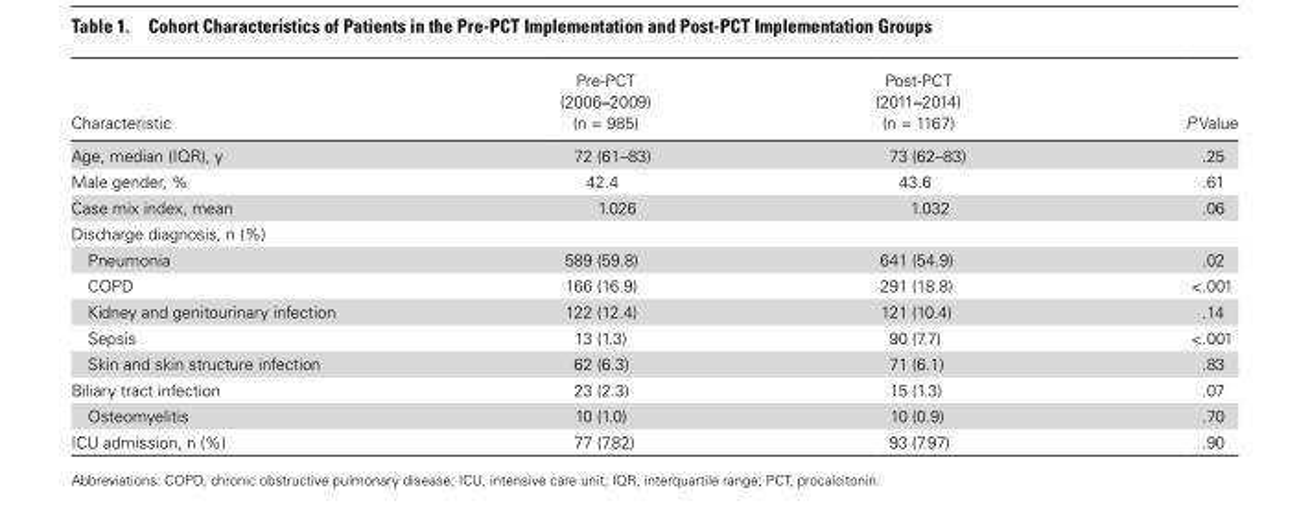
<table><thead><tr><td>Characteristic</td><td>Pre-PCT (2006–2009) (n = 985)</td><td>Post-PCT (2011–2014) (n = 1167)</td><td>P Value</td></tr></thead><tbody><tr><td>Age, median (IQR), y</td><td>72 (61–83)</td><td>73 (62–83)</td><td>.25</td></tr><tr><td>Male gender, %</td><td>42.4</td><td>43.6</td><td>.61</td></tr><tr><td>Case mix index, mean</td><td>1.026</td><td>1.032</td><td>.06</td></tr><tr><td colspan="4">Discharge diagnosis, n (%)</td></tr><tr><td>Pneumonia</td><td>589 (59.8)</td><td>641 (54.9)</td><td>.02</td></tr><tr><td>COPD</td><td>166 (16.9)</td><td>291 (18.8)</td><td>&lt;.001</td></tr><tr><td>Kidney and genitourinary infection</td><td>122 (12.4)</td><td>121 (10.4)</td><td>.14</td></tr><tr><td>Sepsis</td><td>13 (1.3)</td><td>90 (7.7)</td><td>&lt;.001</td></tr><tr><td>Skin and skin structure infection</td><td>62 (6.3)</td><td>71 (6.1)</td><td>.83</td></tr><tr><td>Biliary tract infection</td><td>23 (2.3)</td><td>15 (1.3)</td><td>.07</td></tr><tr><td>Osteomyelitis</td><td>10 (1.0)</td><td>10 (0.9)</td><td>.70</td></tr><tr><td>ICU admission, n (%)</td><td>77 (7.82)</td><td>93 (7.97)</td><td>.90</td></tr></tbody></table>